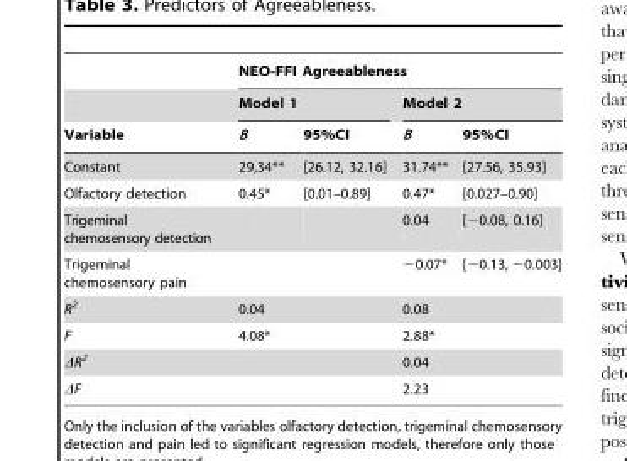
<table><thead><tr><td rowspan="3">Variable</td><td colspan="4">NEO-FFI Agreeableness</td></tr><tr><td colspan="2">Model 1</td><td colspan="2">Model 2</td></tr><tr><td>B</td><td>95%CI</td><td>B</td><td>95%CI</td></tr></thead><tbody><tr><td>Constant</td><td>29,34**</td><td>[26.12, 32.16]</td><td>31.74**</td><td>[27.56, 35.93]</td></tr><tr><td>Olfactory detection</td><td>0.45*</td><td>[0.01–0.89]</td><td>0.47*</td><td>[0.027–0.90]</td></tr><tr><td>Trigeminal chemosensory detection</td><td></td><td></td><td>0.04</td><td>[−0.08, 0.16]</td></tr><tr><td>Trigeminal chemosensory pain</td><td></td><td></td><td>−0.07*</td><td>[−0.13, −0.003]</td></tr><tr><td>R<sup>2</sup></td><td colspan="2">0.04</td><td colspan="2">0.08</td></tr><tr><td>F</td><td colspan="2">4.08*</td><td colspan="2">2.88*</td></tr><tr><td>ΔR<sup>2</sup></td><td colspan="2"></td><td colspan="2">0.04</td></tr><tr><td>ΔF</td><td colspan="2"></td><td colspan="2">2.23</td></tr></tbody></table>